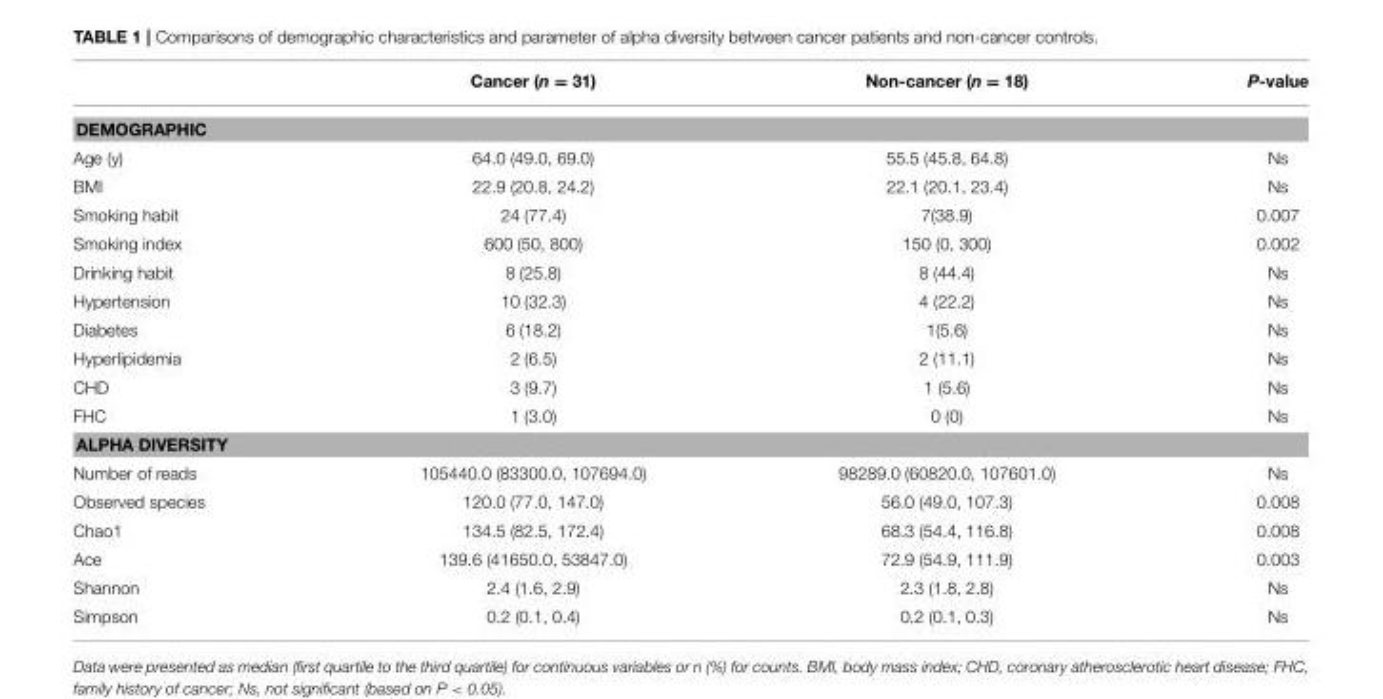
<table><thead><tr><td></td><td>Cancer (n = 31)</td><td>Non-cancer (n = 18)</td><td>P-value</td></tr></thead><tbody><tr><td colspan="4">DEMOGRAPHIC</td></tr><tr><td>Age (y)</td><td>64.0 (49.0, 69.0)</td><td>55.5 (45.8, 64.8)</td><td>Ns</td></tr><tr><td>BMI</td><td>22.9 (20.8, 24.2)</td><td>22.1 (20.1, 23.4)</td><td>Ns</td></tr><tr><td>Smoking habit</td><td>24 (77.4)</td><td>7(38.9)</td><td>0.007</td></tr><tr><td>Smoking index</td><td>600 (50, 800)</td><td>150 (0, 300)</td><td>0.002</td></tr><tr><td>Drinking habit</td><td>8 (25.8)</td><td>8 (44.4)</td><td>Ns</td></tr><tr><td>Hypertension</td><td>10 (32.3)</td><td>4 (22.2)</td><td>Ns</td></tr><tr><td>Diabetes</td><td>6 (18.2)</td><td>1(5.6)</td><td>Ns</td></tr><tr><td>Hyperlipidemia</td><td>2 (6.5)</td><td>2 (11.1)</td><td>Ns</td></tr><tr><td>CHD</td><td>3 (9.7)</td><td>1 (5.6)</td><td>Ns</td></tr><tr><td>FHC</td><td>1 (3.0)</td><td>0 (0)</td><td>Ns</td></tr><tr><td colspan="4">ALPHA DIVERSITY</td></tr><tr><td>Number of reads</td><td>105440.0 (83300.0, 107694.0)</td><td>98289.0 (60820.0, 107601.0)</td><td>Ns</td></tr><tr><td>Observed species</td><td>120.0 (77.0, 147.0)</td><td>56.0 (49.0, 107.3)</td><td>0.008</td></tr><tr><td>Chao1</td><td>134.5 (82.5, 172.4)</td><td>68.3 (54.4, 116.8)</td><td>0.008</td></tr><tr><td>Ace</td><td>139.6 (41650.0, 53847.0)</td><td>72.9 (54.9, 111.9)</td><td>0.003</td></tr><tr><td>Shannon</td><td>2.4 (1.6, 2.9)</td><td>2.3 (1.8, 2.8)</td><td>Ns</td></tr><tr><td>Simpson</td><td>0.2 (0.1, 0.4)</td><td>0.2 (0.1, 0.3)</td><td>Ns</td></tr></tbody></table>